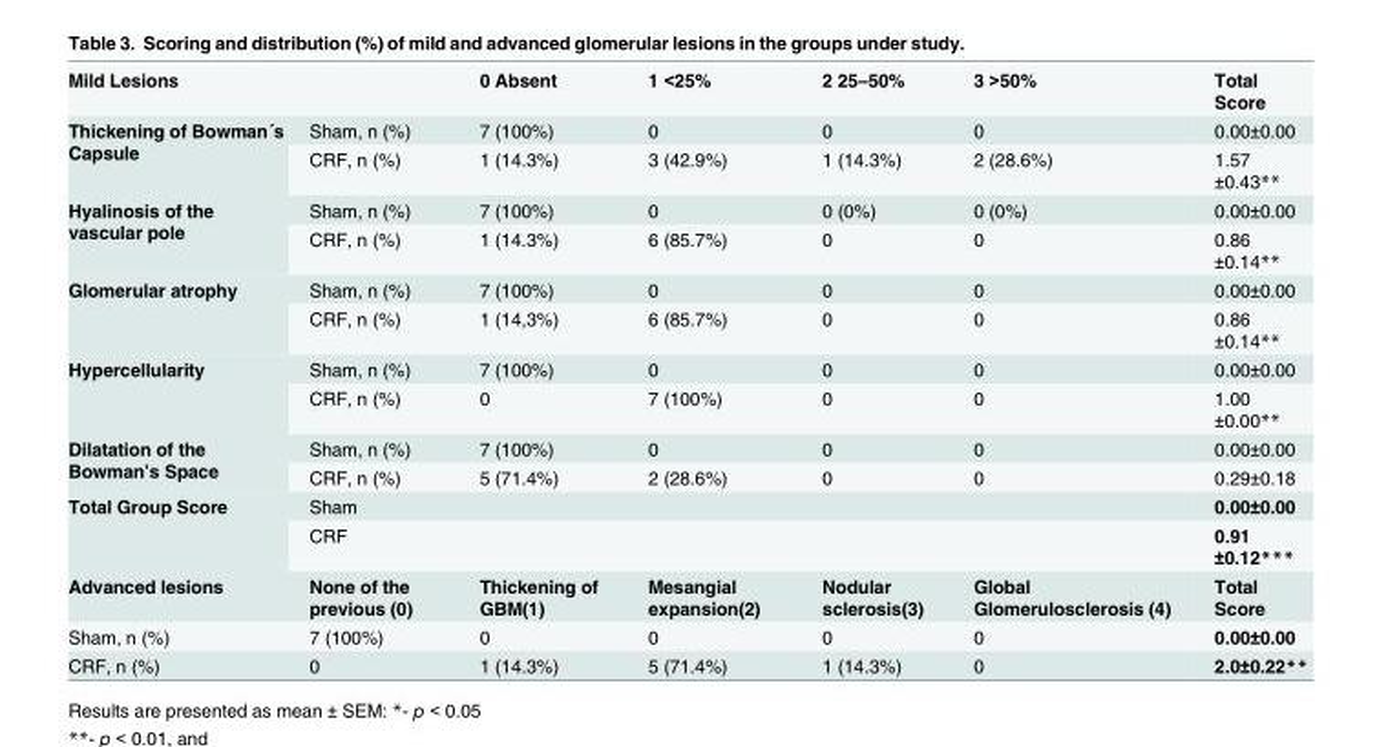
<table><tbody><tr><td>Mild Lesions</td><td></td><td>0 Absent</td><td>1 &lt;25%</td><td>2 25–50%</td><td>3 &gt;50%</td><td>Total Score</td></tr><tr><td rowspan="2">Thickening of Bowman´s Capsule</td><td>Sham, n (%)</td><td>7 (100%)</td><td>0</td><td>0</td><td>0</td><td>0.00±0.00</td></tr><tr><td>CRF, n (%)</td><td>1 (14.3%)</td><td>3 (42.9%)</td><td>1 (14.3%)</td><td>2 (28.6%)</td><td>1.57 ±0.43**</td></tr><tr><td rowspan="2">Hyalinosis of the vascular pole</td><td>Sham, n (%)</td><td>7 (100%)</td><td>0</td><td>0 (0%)</td><td>0 (0%)</td><td>0.00±0.00</td></tr><tr><td>CRF, n (%)</td><td>1 (14.3%)</td><td>6 (85.7%)</td><td>0</td><td>0</td><td>0.86 ±0.14**</td></tr><tr><td rowspan="2">Glomerular atrophy</td><td>Sham, n (%)</td><td>7 (100%)</td><td>0</td><td>0</td><td>0</td><td>0.00±0.00</td></tr><tr><td>CRF, n (%)</td><td>1 (14,3%)</td><td>6 (85.7%)</td><td>0</td><td>0</td><td>0.86 ±0.14**</td></tr><tr><td rowspan="2">Hypercellularity</td><td>Sham, n (%)</td><td>7 (100%)</td><td>0</td><td>0</td><td>0</td><td>0.00±0.00</td></tr><tr><td>CRF, n (%)</td><td>0</td><td>7 (100%)</td><td>0</td><td>0</td><td>1.00 ±0.00**</td></tr><tr><td rowspan="2">Dilatation of the Bowman’s Space</td><td>Sham, n (%)</td><td>7 (100%)</td><td>0</td><td>0</td><td>0</td><td>0.00±0.00</td></tr><tr><td>CRF, n (%)</td><td>5 (71.4%)</td><td>2 (28.6%)</td><td>0</td><td>0</td><td>0.29±0.18</td></tr><tr><td rowspan="2">Total Group Score</td><td>Sham</td><td colspan="4"></td><td>0.00±0.00</td></tr><tr><td>CRF</td><td colspan="4"></td><td>0.91 ±0.12***</td></tr><tr><td>Advanced lesions</td><td>None of the previous (0)</td><td>Thickening of GBM(1)</td><td>Mesangial expansion(2)</td><td>Nodular sclerosis(3)</td><td>Global Glomerulosclerosis (4)</td><td>Total Score</td></tr><tr><td>Sham, n (%)</td><td>7 (100%)</td><td>0</td><td>0</td><td>0</td><td>0</td><td>0.00±0.00</td></tr><tr><td>CRF, n (%)</td><td>0</td><td>1 (14.3%)</td><td>5 (71.4%)</td><td>1 (14.3%)</td><td>0</td><td>2.0±0.22**</td></tr></tbody></table>